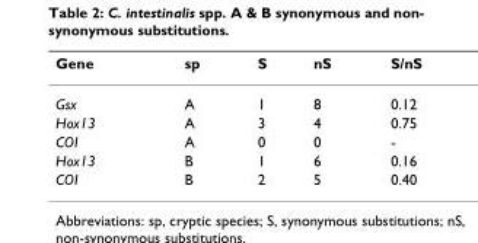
<table><thead><tr><td>Gene</td><td>sp</td><td>S</td><td>nS</td><td>S/nS</td></tr></thead><tbody><tr><td>Gsx</td><td>A</td><td>1</td><td>8</td><td>0.12</td></tr><tr><td>Hox13</td><td>A</td><td>3</td><td>4</td><td>0.75</td></tr><tr><td>COI</td><td>A</td><td>0</td><td>0</td><td>-</td></tr><tr><td>Hox13</td><td>B</td><td>1</td><td>6</td><td>0.16</td></tr><tr><td>COI</td><td>B</td><td>2</td><td>5</td><td>0.40</td></tr></tbody></table>